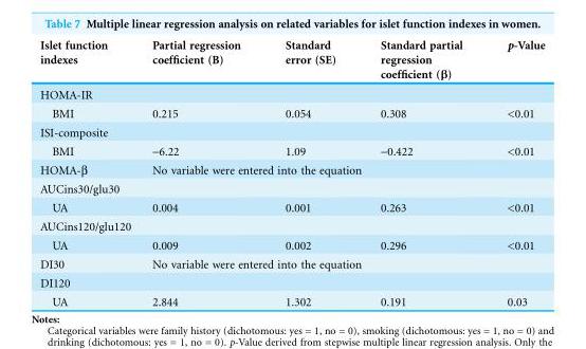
<table><thead><tr><td>Islet function indexes</td><td>Partial regression coefficient (B)</td><td>Standard error (SE)</td><td>Standard partial regression coefficient (β)</td><td>p-Value</td></tr></thead><tbody><tr><td colspan="5">HOMA-IR</td></tr><tr><td>BMI</td><td>0.215</td><td>0.054</td><td>0.308</td><td>&lt;0.01</td></tr><tr><td colspan="5">ISI-composite</td></tr><tr><td>BMI</td><td>-6.22</td><td>1.09</td><td>-0.422</td><td>&lt;0.01</td></tr><tr><td>HOMA-β</td><td colspan="4">No variable were entered into the equation</td></tr><tr><td colspan="5">AUCins30/glu30</td></tr><tr><td>UA</td><td>0.004</td><td>0.001</td><td>0.263</td><td>&lt;0.01</td></tr><tr><td colspan="5">AUCins120/glu120</td></tr><tr><td>UA</td><td>0.009</td><td>0.002</td><td>0.296</td><td>&lt;0.01</td></tr><tr><td>DI30</td><td colspan="4">No variable were entered into the equation</td></tr><tr><td colspan="5">DI120</td></tr><tr><td>UA</td><td>2.844</td><td>1.302</td><td>0.191</td><td>0.03</td></tr></tbody></table>